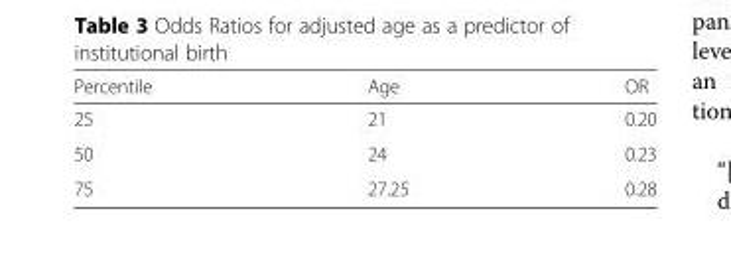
<table><thead><tr><td>Percentile</td><td>Age</td><td>OR</td></tr></thead><tbody><tr><td>25</td><td>21</td><td>0.20</td></tr><tr><td>50</td><td>24</td><td>0.23</td></tr><tr><td>75</td><td>27.25</td><td>0.28</td></tr></tbody></table>